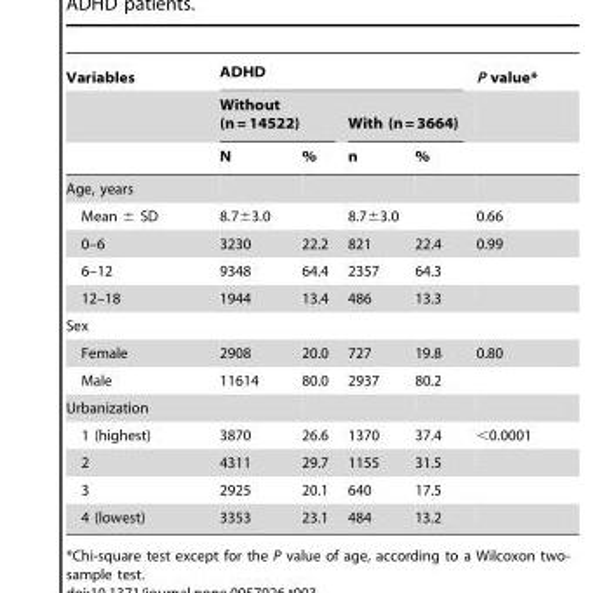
<table><thead><tr><td rowspan="3">Variables</td><td colspan="4">ADHD</td><td rowspan="3">P value*</td></tr><tr><td colspan="2">Without (n = 14522)</td><td colspan="2">With (n = 3664)</td></tr><tr><td>N</td><td>%</td><td>n</td><td>%</td></tr></thead><tbody><tr><td colspan="6">Age, years</td></tr><tr><td>Mean ± SD</td><td colspan="2">8.7±3.0</td><td colspan="2">8.7±3.0</td><td>0.66</td></tr><tr><td>0–6</td><td>3230</td><td>22.2</td><td>821</td><td>22.4</td><td>0.99</td></tr><tr><td>6–12</td><td>9348</td><td>64.4</td><td>2357</td><td>64.3</td><td></td></tr><tr><td>12–18</td><td>1944</td><td>13.4</td><td>486</td><td>13.3</td><td></td></tr><tr><td colspan="6">Sex</td></tr><tr><td>Female</td><td>2908</td><td>20.0</td><td>727</td><td>19.8</td><td>0.80</td></tr><tr><td>Male</td><td>11614</td><td>80.0</td><td>2937</td><td>80.2</td><td></td></tr><tr><td colspan="6">Urbanization</td></tr><tr><td>1 (highest)</td><td>3870</td><td>26.6</td><td>1370</td><td>37.4</td><td>&lt;0.0001</td></tr><tr><td>2</td><td>4311</td><td>29.7</td><td>1155</td><td>31.5</td><td></td></tr><tr><td>3</td><td>2925</td><td>20.1</td><td>640</td><td>17.5</td><td></td></tr><tr><td>4 (lowest)</td><td>3353</td><td>23.1</td><td>484</td><td>13.2</td><td></td></tr></tbody></table>